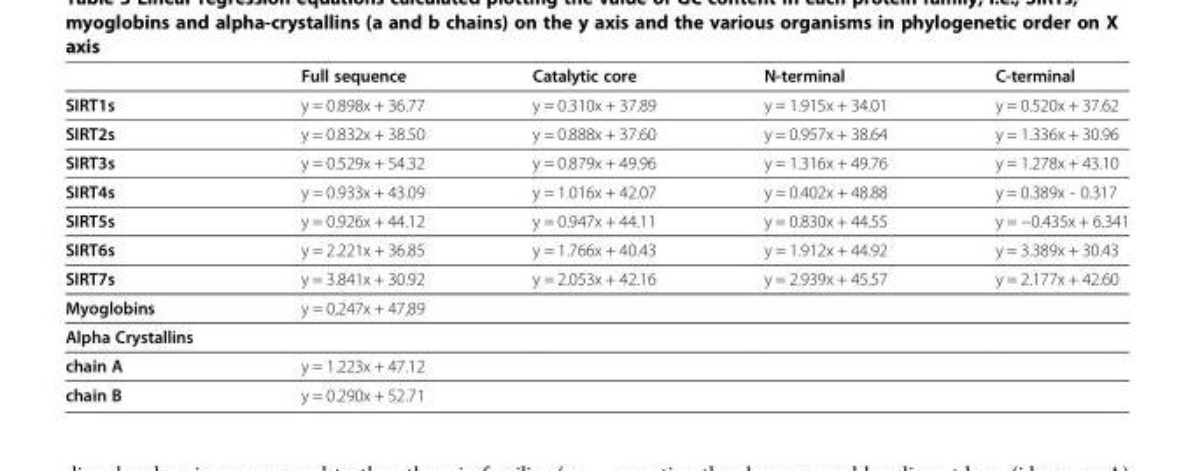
<table><thead><tr><td></td><td>Full sequence</td><td>Catalytic core</td><td>N-terminal</td><td>C-terminal</td></tr></thead><tbody><tr><td>SIRT1s</td><td>y = 0.898x + 36.77</td><td>y = 0.310x + 37.89</td><td>y = 1.915x + 34.01</td><td>y = 0.520x + 37.62</td></tr><tr><td>SIRT2s</td><td>y = 0.832x + 38.50</td><td>y = 0.888x + 37.60</td><td>y = 0.957x + 38.64</td><td>y = 1.336x + 30.96</td></tr><tr><td>SIRT3s</td><td>y = 0.529x + 54.32</td><td>y = 0.879x + 49.96</td><td>y = 1.316x + 49.76</td><td>y = 1.278x + 43.10</td></tr><tr><td>SIRT4s</td><td>y = 0.933x + 43.09</td><td>y = 1.016x + 42.07</td><td>y = 0.402x + 48.88</td><td>y = 0.389x - 0.317</td></tr><tr><td>SIRT5s</td><td>y = 0.926x + 44.12</td><td>y = 0.947x + 44.11</td><td>y = 0.830x + 44.55</td><td>y = −0.435x + 6.341</td></tr><tr><td>SIRT6s</td><td>y = 2.221x + 36.85</td><td>y = 1.766x + 40.43</td><td>y = 1.912x + 44.92</td><td>y = 3.389x + 30.43</td></tr><tr><td>SIRT7s</td><td>y = 3.841x + 30.92</td><td>y = 2.053x + 42.16</td><td>y = 2.939x + 45.57</td><td>y = 2.177x + 42.60</td></tr><tr><td>Myoglobins</td><td>y = 0,247x + 47,89</td><td></td><td></td><td></td></tr><tr><td colspan="5">Alpha Crystallins</td></tr><tr><td>chain A</td><td>y = 1.223x + 47.12</td><td></td><td></td><td></td></tr><tr><td>chain B</td><td>y = 0.290x + 52.71</td><td></td><td></td><td></td></tr></tbody></table>